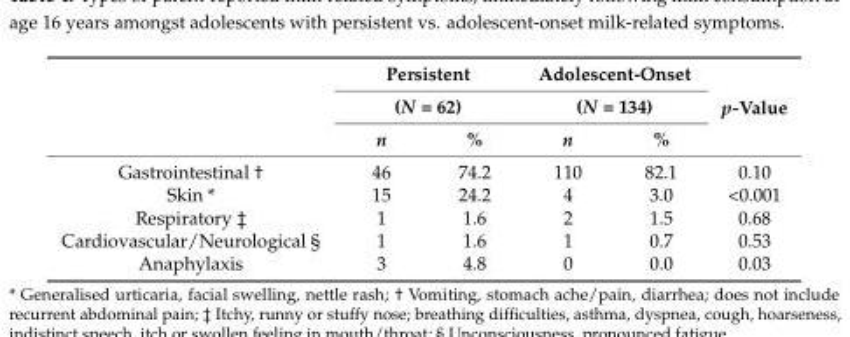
<table><thead><tr><td rowspan="3"></td><td rowspan="2" colspan="2">Persistent (N = 62)</td><td rowspan="2" colspan="2">Adolescent-Onset (N = 134)</td><td rowspan="3">p-Value</td></tr><tr></tr><tr><td>n</td><td>%</td><td>n</td><td>%</td></tr></thead><tbody><tr><td>Gastrointestinal †</td><td>46</td><td>74.2</td><td>110</td><td>82.1</td><td>0.10</td></tr><tr><td>Skin *</td><td>15</td><td>24.2</td><td>4</td><td>3.0</td><td>&lt;0.001</td></tr><tr><td>Respiratory ‡</td><td>1</td><td>1.6</td><td>2</td><td>1.5</td><td>0.68</td></tr><tr><td>Cardiovascular/Neurological §</td><td>1</td><td>1.6</td><td>1</td><td>0.7</td><td>0.53</td></tr><tr><td>Anaphylaxis</td><td>3</td><td>4.8</td><td>0</td><td>0.0</td><td>0.03</td></tr></tbody></table>